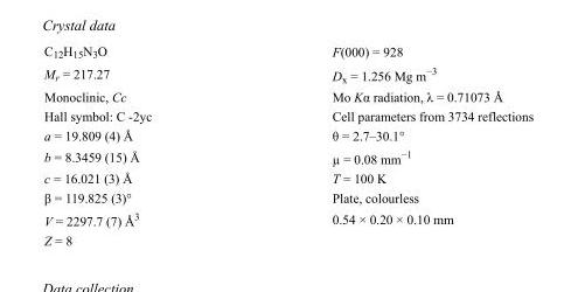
<table><tbody><tr><td>C<sub>12</sub>H<sub>15</sub>N<sub>3</sub>O</td><td>F(000) = 928</td></tr><tr><td>M<sub>r</sub> = 217.27</td><td>D<sub>x</sub> = 1.256 Mg m<sup>−3</sup></td></tr><tr><td>Monoclinic, Cc</td><td>Mo Kα radiation, λ = 0.71073 Å</td></tr><tr><td>Hall symbol: C -2yc</td><td>Cell parameters from 3734 reflections</td></tr><tr><td>a = 19.809 (4) Å</td><td>θ = 2.7–30.1°</td></tr><tr><td>b = 8.3459 (15) Å</td><td>µ = 0.08 mm<sup>−1</sup></td></tr><tr><td>c = 16.021 (3) Å</td><td>T = 100 K</td></tr><tr><td>β = 119.825 (3)°</td><td>Plate, colourless</td></tr><tr><td>V = 2297.7 (7) Å<sup>3</sup></td><td>0.54 × 0.20 × 0.10 mm</td></tr><tr><td>Z = 8</td><td></td></tr></tbody></table>